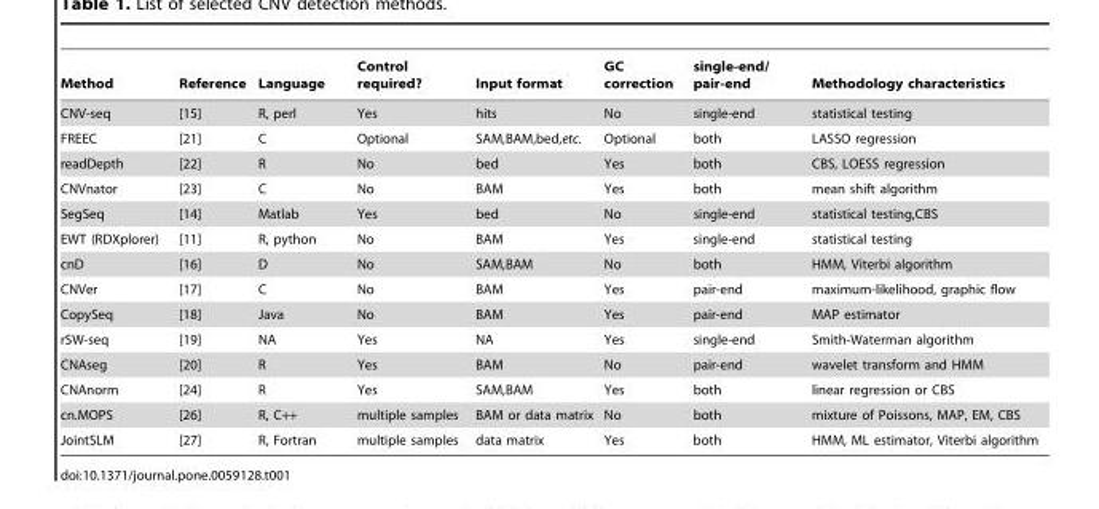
<table><thead><tr><td>Method</td><td>Reference</td><td>Language</td><td>Control required?</td><td>Input format</td><td>GC correction</td><td>single-end/ pair-end</td><td>Methodology characteristics</td></tr></thead><tbody><tr><td>CNV-seq</td><td>[15]</td><td>R, perl</td><td>Yes</td><td>hits</td><td>No</td><td>single-end</td><td>statistical testing</td></tr><tr><td>FREEC</td><td>[21]</td><td>C</td><td>Optional</td><td>SAM,BAM,bed,etc.</td><td>Optional</td><td>both</td><td>LASSO regression</td></tr><tr><td>readDepth</td><td>[22]</td><td>R</td><td>No</td><td>bed</td><td>Yes</td><td>both</td><td>CBS, LOESS regression</td></tr><tr><td>CNVnator</td><td>[23]</td><td>C</td><td>No</td><td>BAM</td><td>Yes</td><td>both</td><td>mean shift algorithm</td></tr><tr><td>SegSeq</td><td>[14]</td><td>Matlab</td><td>Yes</td><td>bed</td><td>No</td><td>single-end</td><td>statistical testing,CBS</td></tr><tr><td>EWT (RDXplorer)</td><td>[11]</td><td>R, python</td><td>No</td><td>BAM</td><td>Yes</td><td>single-end</td><td>statistical testing</td></tr><tr><td>cnD</td><td>[16]</td><td>D</td><td>No</td><td>SAM,BAM</td><td>No</td><td>both</td><td>HMM, Viterbi algorithm</td></tr><tr><td>CNVer</td><td>[17]</td><td>C</td><td>No</td><td>BAM</td><td>Yes</td><td>pair-end</td><td>maximum-likelihood, graphic flow</td></tr><tr><td>CopySeq</td><td>[18]</td><td>Java</td><td>No</td><td>BAM</td><td>Yes</td><td>pair-end</td><td>MAP estimator</td></tr><tr><td>rSW-seq</td><td>[19]</td><td>NA</td><td>Yes</td><td>NA</td><td>Yes</td><td>single-end</td><td>Smith-Waterman algorithm</td></tr><tr><td>CNAseg</td><td>[20]</td><td>R</td><td>Yes</td><td>BAM</td><td>No</td><td>pair-end</td><td>wavelet transform and HMM</td></tr><tr><td>CNAnorm</td><td>[24]</td><td>R</td><td>Yes</td><td>SAM,BAM</td><td>Yes</td><td>both</td><td>linear regression or CBS</td></tr><tr><td>cn.MOPS</td><td>[26]</td><td>R, C++</td><td>multiple samples</td><td>BAM or data matrix</td><td>No</td><td>both</td><td>mixture of Poissons, MAP, EM, CBS</td></tr><tr><td>JointSLM</td><td>[27]</td><td>R, Fortran</td><td>multiple samples</td><td>data matrix</td><td>Yes</td><td>both</td><td>HMM, ML estimator, Viterbi algorithm</td></tr></tbody></table>